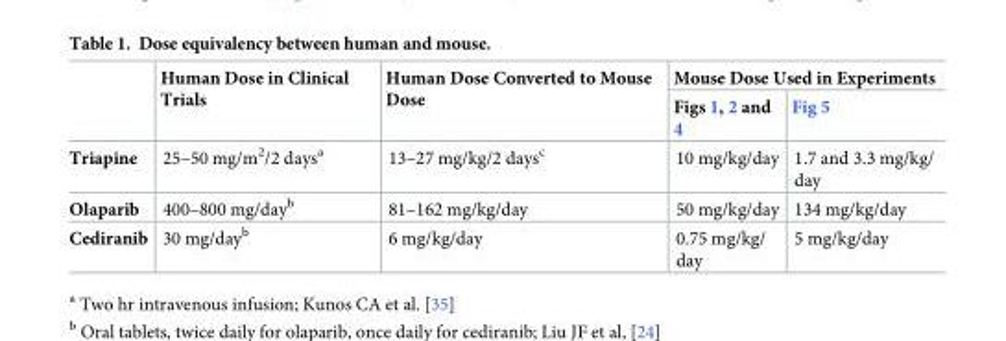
<table><thead><tr><td rowspan="2"></td><td rowspan="2">Human Dose in Clinical Trials</td><td rowspan="2">Human Dose Converted to Mouse Dose</td><td colspan="2">Mouse Dose Used in Experiments</td></tr><tr><td>Figs 1, 2 and 4</td><td>Fig 5</td></tr></thead><tbody><tr><td>Triapine</td><td>25–50 mg/m<sup>2</sup>/2 days<sup>a</sup></td><td>13–27 mg/kg/2 days<sup>c</sup></td><td>10 mg/kg/day</td><td>1.7 and 3.3 mg/kg/ day</td></tr><tr><td>Olaparib</td><td>400–800 mg/day<sup>b</sup></td><td>81–162 mg/kg/day</td><td>50 mg/kg/day</td><td>134 mg/kg/day</td></tr><tr><td>Cediranib</td><td>30 mg/day<sup>b</sup></td><td>6 mg/kg/day</td><td>0.75 mg/kg/ day</td><td>5 mg/kg/day</td></tr></tbody></table>